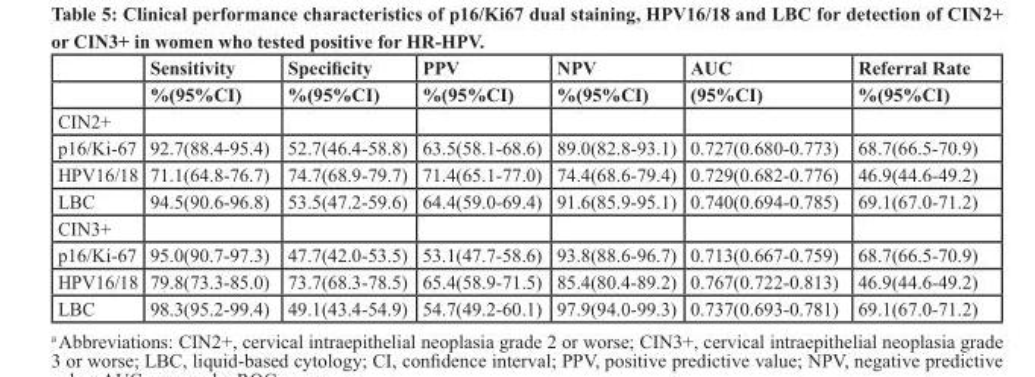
<table><thead><tr><td rowspan="2"></td><td rowspan="2">Sensitivity %(95%CI)</td><td rowspan="2">Specificity %(95%CI)</td><td rowspan="2">PPV %(95%CI)</td><td rowspan="2">NPV %(95%CI)</td><td rowspan="2">AUC (95%CI)</td><td rowspan="2">Referral Rate %(95%CI)</td></tr><tr></tr></thead><tbody><tr><td colspan="7">CIN2+</td></tr><tr><td>p16/Ki-67</td><td>92.7(88.4-95.4)</td><td>52.7(46.4-58.8)</td><td>63.5(58.1-68.6)</td><td>89.0(82.8-93.1)</td><td>0.727(0.680-0.773)</td><td>68.7(66.5-70.9)</td></tr><tr><td>HPV16/18</td><td>71.1(64.8-76.7)</td><td>74.7(68.9-79.7)</td><td>71.4(65.1-77.0)</td><td>74.4(68.6-79.4)</td><td>0.729(0.682-0.776)</td><td>46.9(44.6-49.2)</td></tr><tr><td>LBC</td><td>94.5(90.6-96.8)</td><td>53.5(47.2-59.6)</td><td>64.4(59.0-69.4)</td><td>91.6(85.9-95.1)</td><td>0.740(0.694-0.785)</td><td>69.1(67.0-71.2)</td></tr><tr><td colspan="7">CIN3+</td></tr><tr><td>p16/Ki-67</td><td>95.0(90.7-97.3)</td><td>47.7(42.0-53.5)</td><td>53.1(47.7-58.6)</td><td>93.8(88.6-96.7)</td><td>0.713(0.667-0.759)</td><td>68.7(66.5-70.9)</td></tr><tr><td>HPV16/18</td><td>79.8(73.3-85.0)</td><td>73.7(68.3-78.5)</td><td>65.4(58.9-71.5)</td><td>85.4(80.4-89.2)</td><td>0.767(0.722-0.813)</td><td>46.9(44.6-49.2)</td></tr><tr><td>LBC</td><td>98.3(95.2-99.4)</td><td>49.1(43.4-54.9)</td><td>54.7(49.2-60.1)</td><td>97.9(94.0-99.3)</td><td>0.737(0.693-0.781)</td><td>69.1(67.0-71.2)</td></tr></tbody></table>